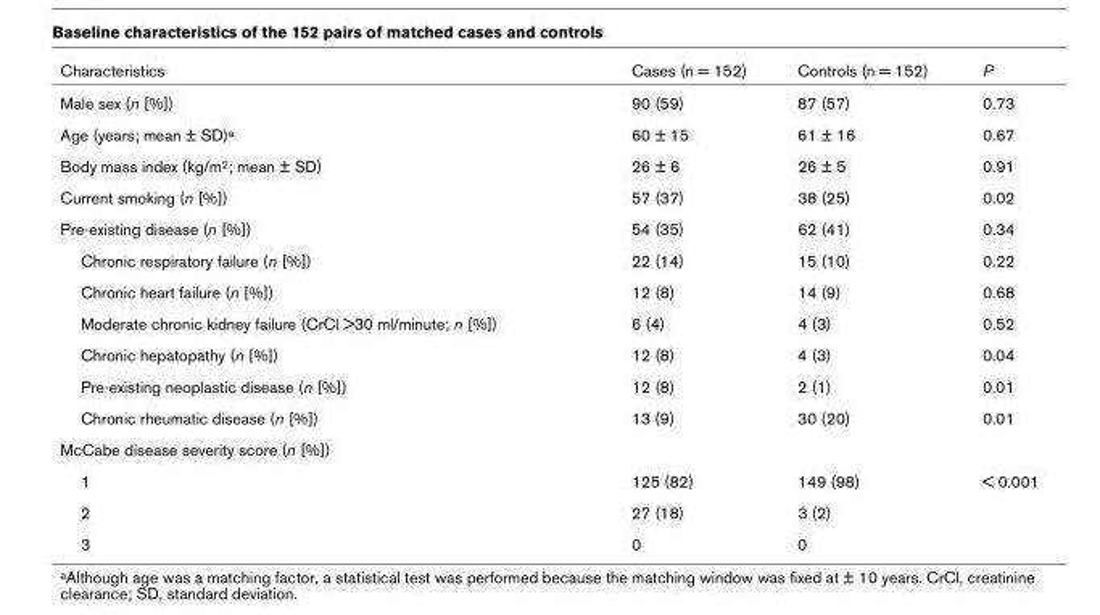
<table><thead><tr><td>Characteristics</td><td>Cases (n = 152)</td><td>Controls (n = 152)</td><td>P</td></tr></thead><tbody><tr><td>Male sex (n [%])</td><td>90 (59)</td><td>87 (57)</td><td>0.73</td></tr><tr><td>Age (years; mean ± SD)<sup>a</sup></td><td>60 ± 15</td><td>61 ± 16</td><td>0.67</td></tr><tr><td>Body mass index (kg/m<sup>2</sup>; mean ± SD)</td><td>26 ± 6</td><td>26 ± 5</td><td>0.91</td></tr><tr><td>Current smoking (n [%])</td><td>57 (37)</td><td>38 (25)</td><td>0.02</td></tr><tr><td>Pre-existing disease (n [%])</td><td>54 (35)</td><td>62 (41)</td><td>0.34</td></tr><tr><td>Chronic respiratory failure (n [%])</td><td>22 (14)</td><td>15 (10)</td><td>0.22</td></tr><tr><td>Chronic heart failure (n [%])</td><td>12 (8)</td><td>14 (9)</td><td>0.68</td></tr><tr><td>Moderate chronic kidney failure (CrCl &gt;30 ml/minute; n [%])</td><td>6 (4)</td><td>4 (3)</td><td>0.52</td></tr><tr><td>Chronic hepatopathy (n [%])</td><td>12 (8)</td><td>4 (3)</td><td>0.04</td></tr><tr><td>Pre-existing neoplastic disease (n [%])</td><td>12 (8)</td><td>2 (1)</td><td>0.01</td></tr><tr><td>Chronic rheumatic disease (n [%])</td><td>13 (9)</td><td>30 (20)</td><td>0.01</td></tr><tr><td colspan="4">McCabe disease severity score (n [%])</td></tr><tr><td>1</td><td>125 (82)</td><td>149 (98)</td><td>&lt; 0.001</td></tr><tr><td>2</td><td>27 (18)</td><td>3 (2)</td><td></td></tr><tr><td>3</td><td>0</td><td>0</td><td></td></tr></tbody></table>